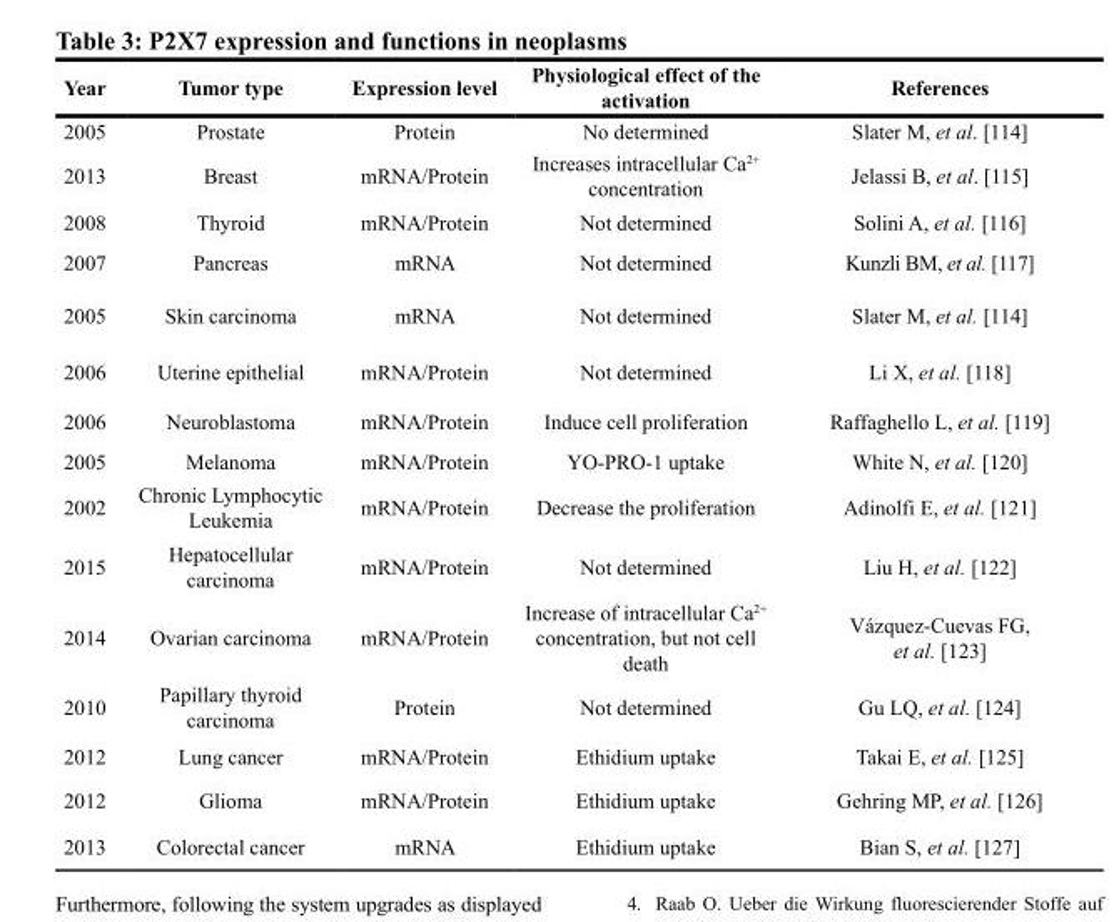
<table><thead><tr><td>Year</td><td>Tumor type</td><td>Expression level</td><td>Physiological effect of the activation</td><td>References</td></tr></thead><tbody><tr><td>2005</td><td>Prostate</td><td>Protein</td><td>No determined</td><td>Slater M, et al. [114]</td></tr><tr><td>2013</td><td>Breast</td><td>mRNA/Protein</td><td>Increases intracellular Ca<sup>2+</sup> concentration</td><td>Jelassi B, et al. [115]</td></tr><tr><td>2008</td><td>Thyroid</td><td>mRNA/Protein</td><td>Not determined</td><td>Solini A, et al. [116]</td></tr><tr><td>2007</td><td>Pancreas</td><td>mRNA</td><td>Not determined</td><td>Kunzli BM, et al. [117]</td></tr><tr><td>2005</td><td>Skin carcinoma</td><td>mRNA</td><td>Not determined</td><td>Slater M, et al. [114]</td></tr><tr><td>2006</td><td>Uterine epithelial</td><td>mRNA/Protein</td><td>Not determined</td><td>Li X, et al. [118]</td></tr><tr><td>2006</td><td>Neuroblastoma</td><td>mRNA/Protein</td><td>Induce cell proliferation</td><td>Raffaghello L, et al. [119]</td></tr><tr><td>2005</td><td>Melanoma</td><td>mRNA/Protein</td><td>YO-PRO-1 uptake</td><td>White N, et al. [120]</td></tr><tr><td>2002</td><td>Chronic Lymphocytic Leukemia</td><td>mRNA/Protein</td><td>Decrease the proliferation</td><td>Adinolfi E, et al. [121]</td></tr><tr><td>2015</td><td>Hepatocellular carcinoma</td><td>mRNA/Protein</td><td>Not determined</td><td>Liu H, et al. [122]</td></tr><tr><td>2014</td><td>Ovarian carcinoma</td><td>mRNA/Protein</td><td>Increase of intracellular Ca<sup>2+</sup> concentration, but not cell death</td><td>Vázquez-Cuevas FG, et al. [123]</td></tr><tr><td>2010</td><td>Papillary thyroid carcinoma</td><td>Protein</td><td>Not determined</td><td>Gu LQ, et al. [124]</td></tr><tr><td>2012</td><td>Lung cancer</td><td>mRNA/Protein</td><td>Ethidium uptake</td><td>Takai E, et al. [125]</td></tr><tr><td>2012</td><td>Glioma</td><td>mRNA/Protein</td><td>Ethidium uptake</td><td>Gehring MP, et al. [126]</td></tr><tr><td>2013</td><td>Colorectal cancer</td><td>mRNA</td><td>Ethidium uptake</td><td>Bian S, et al. [127]</td></tr></tbody></table>